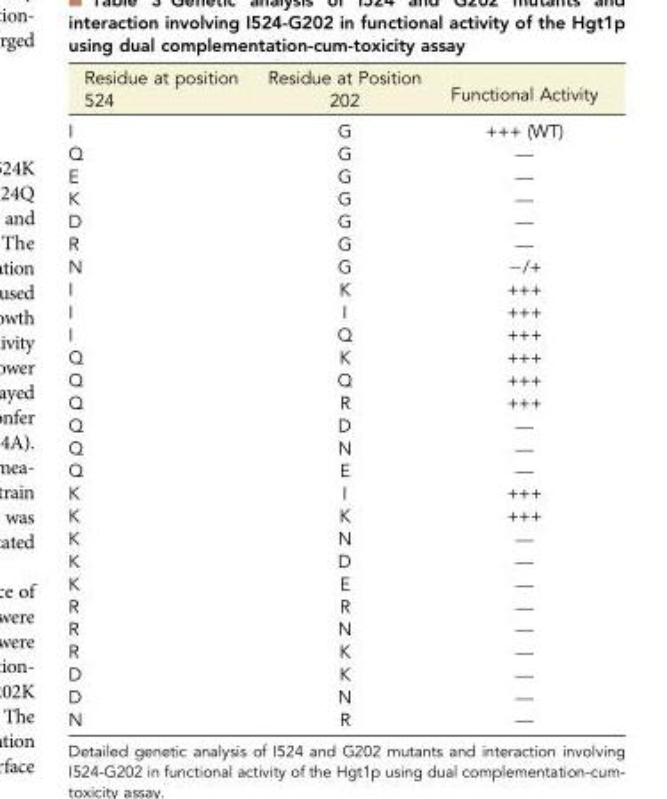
<table><thead><tr><td>Residue at position 524</td><td>Residue at Position 202</td><td>Functional Activity</td></tr></thead><tbody><tr><td>I</td><td>G</td><td>+++ (WT)</td></tr><tr><td>Q</td><td>G</td><td>—</td></tr><tr><td>E</td><td>G</td><td>—</td></tr><tr><td>K</td><td>G</td><td>—</td></tr><tr><td>D</td><td>G</td><td>—</td></tr><tr><td>R</td><td>G</td><td>—</td></tr><tr><td>N</td><td>G</td><td>−/+</td></tr><tr><td>I</td><td>K</td><td>+++</td></tr><tr><td>I</td><td>I</td><td>+++</td></tr><tr><td>I</td><td>Q</td><td>+++</td></tr><tr><td>Q</td><td>K</td><td>+++</td></tr><tr><td>Q</td><td>Q</td><td>+++</td></tr><tr><td>Q</td><td>R</td><td>+++</td></tr><tr><td>Q</td><td>D</td><td>—</td></tr><tr><td>Q</td><td>N</td><td>—</td></tr><tr><td>Q</td><td>E</td><td>—</td></tr><tr><td>K</td><td>I</td><td>+++</td></tr><tr><td>K</td><td>K</td><td>+++</td></tr><tr><td>K</td><td>N</td><td>—</td></tr><tr><td>K</td><td>D</td><td>—</td></tr><tr><td>K</td><td>E</td><td>—</td></tr><tr><td>R</td><td>R</td><td>—</td></tr><tr><td>R</td><td>N</td><td>—</td></tr><tr><td>R</td><td>K</td><td>—</td></tr><tr><td>D</td><td>K</td><td>—</td></tr><tr><td>D</td><td>N</td><td>—</td></tr><tr><td>N</td><td>R</td><td>—</td></tr></tbody></table>